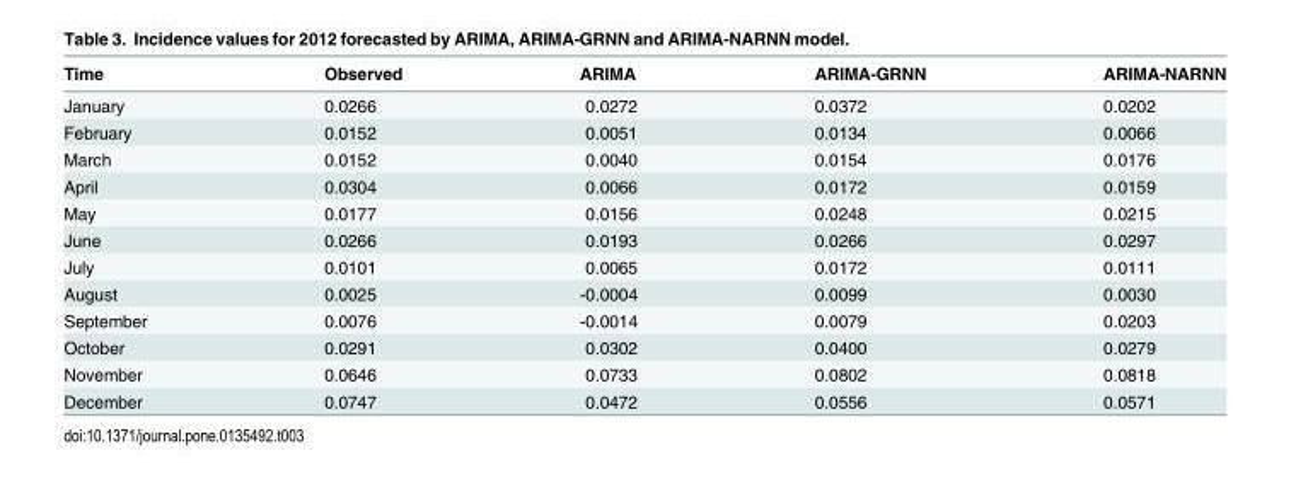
<table><thead><tr><td>Time</td><td>Observed</td><td>ARIMA</td><td>ARIMA-GRNN</td><td>ARIMA-NARNN</td></tr></thead><tbody><tr><td>January</td><td>0.0266</td><td>0.0272</td><td>0.0372</td><td>0.0202</td></tr><tr><td>February</td><td>0.0152</td><td>0.0051</td><td>0.0134</td><td>0.0066</td></tr><tr><td>March</td><td>0.0152</td><td>0.0040</td><td>0.0154</td><td>0.0176</td></tr><tr><td>April</td><td>0.0304</td><td>0.0066</td><td>0.0172</td><td>0.0159</td></tr><tr><td>May</td><td>0.0177</td><td>0.0156</td><td>0.0248</td><td>0.0215</td></tr><tr><td>June</td><td>0.0266</td><td>0.0193</td><td>0.0266</td><td>0.0297</td></tr><tr><td>July</td><td>0.0101</td><td>0.0065</td><td>0.0172</td><td>0.0111</td></tr><tr><td>August</td><td>0.0025</td><td>-0.0004</td><td>0.0099</td><td>0.0030</td></tr><tr><td>September</td><td>0.0076</td><td>-0.0014</td><td>0.0079</td><td>0.0203</td></tr><tr><td>October</td><td>0.0291</td><td>0.0302</td><td>0.0400</td><td>0.0279</td></tr><tr><td>November</td><td>0.0646</td><td>0.0733</td><td>0.0802</td><td>0.0818</td></tr><tr><td>December</td><td>0.0747</td><td>0.0472</td><td>0.0556</td><td>0.0571</td></tr></tbody></table>